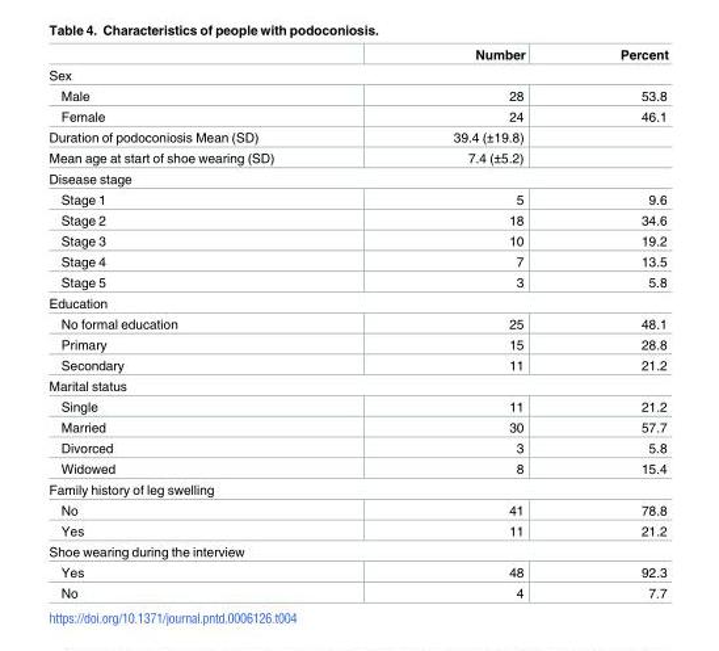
<table><thead><tr><td></td><td>Number</td><td>Percent</td></tr></thead><tbody><tr><td colspan="3">Sex</td></tr><tr><td>Male</td><td>28</td><td>53.8</td></tr><tr><td>Female</td><td>24</td><td>46.1</td></tr><tr><td>Duration of podoconiosis Mean (SD)</td><td>39.4 (±19.8)</td><td></td></tr><tr><td>Mean age at start of shoe wearing (SD)</td><td>7.4 (±5.2)</td><td></td></tr><tr><td colspan="3">Disease stage</td></tr><tr><td>Stage 1</td><td>5</td><td>9.6</td></tr><tr><td>Stage 2</td><td>18</td><td>34.6</td></tr><tr><td>Stage 3</td><td>10</td><td>19.2</td></tr><tr><td>Stage 4</td><td>7</td><td>13.5</td></tr><tr><td>Stage 5</td><td>3</td><td>5.8</td></tr><tr><td colspan="3">Education</td></tr><tr><td>No formal education</td><td>25</td><td>48.1</td></tr><tr><td>Primary</td><td>15</td><td>28.8</td></tr><tr><td>Secondary</td><td>11</td><td>21.2</td></tr><tr><td colspan="3">Marital status</td></tr><tr><td>Single</td><td>11</td><td>21.2</td></tr><tr><td>Married</td><td>30</td><td>57.7</td></tr><tr><td>Divorced</td><td>3</td><td>5.8</td></tr><tr><td>Widowed</td><td>8</td><td>15.4</td></tr><tr><td colspan="3">Family history of leg swelling</td></tr><tr><td>No</td><td>41</td><td>78.8</td></tr><tr><td>Yes</td><td>11</td><td>21.2</td></tr><tr><td colspan="3">Shoe wearing during the interview</td></tr><tr><td>Yes</td><td>48</td><td>92.3</td></tr><tr><td>No</td><td>4</td><td>7.7</td></tr></tbody></table>